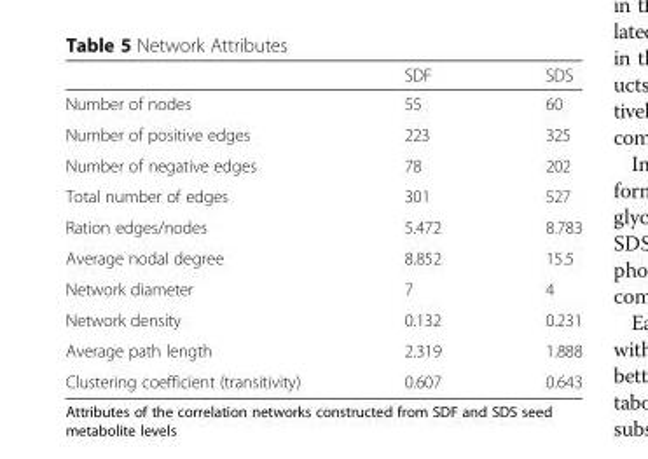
<table><thead><tr><td></td><td>SDF</td><td>SDS</td></tr></thead><tbody><tr><td>Number of nodes</td><td>55</td><td>60</td></tr><tr><td>Number of positive edges</td><td>223</td><td>325</td></tr><tr><td>Number of negative edges</td><td>78</td><td>202</td></tr><tr><td>Total number of edges</td><td>301</td><td>527</td></tr><tr><td>Ration edges/nodes</td><td>5.472</td><td>8.783</td></tr><tr><td>Average nodal degree</td><td>8.852</td><td>15.5</td></tr><tr><td>Network diameter</td><td>7</td><td>4</td></tr><tr><td>Network density</td><td>0.132</td><td>0.231</td></tr><tr><td>Average path length</td><td>2.319</td><td>1.888</td></tr><tr><td>Clustering coefficient (transitivity)</td><td>0.607</td><td>0.643</td></tr></tbody></table>